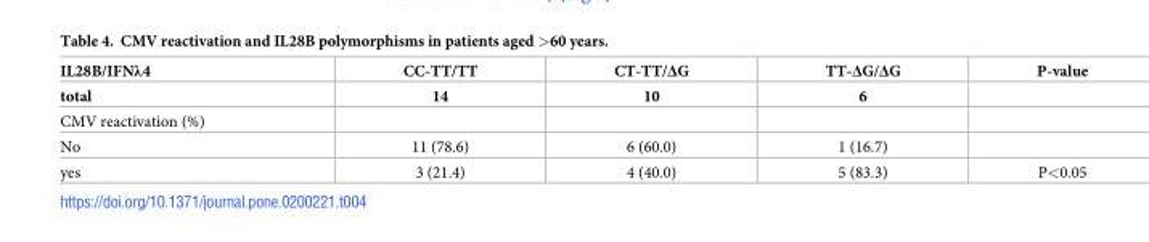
<table><thead><tr><td rowspan="2">IL28B/IFNλ4 total</td><td rowspan="2">CC-TT/TT 14</td><td rowspan="2">CT-TT/ΔG 10</td><td rowspan="2">TT-ΔG/ΔG 6</td><td rowspan="2">P-value</td></tr><tr></tr></thead><tbody><tr><td colspan="5">CMV reactivation (%)</td></tr><tr><td>No</td><td>11 (78.6)</td><td>6 (60.0)</td><td>1 (16.7)</td><td></td></tr><tr><td>yes</td><td>3 (21.4)</td><td>4 (40.0)</td><td>5 (83.3)</td><td>P&lt;0.05</td></tr></tbody></table>